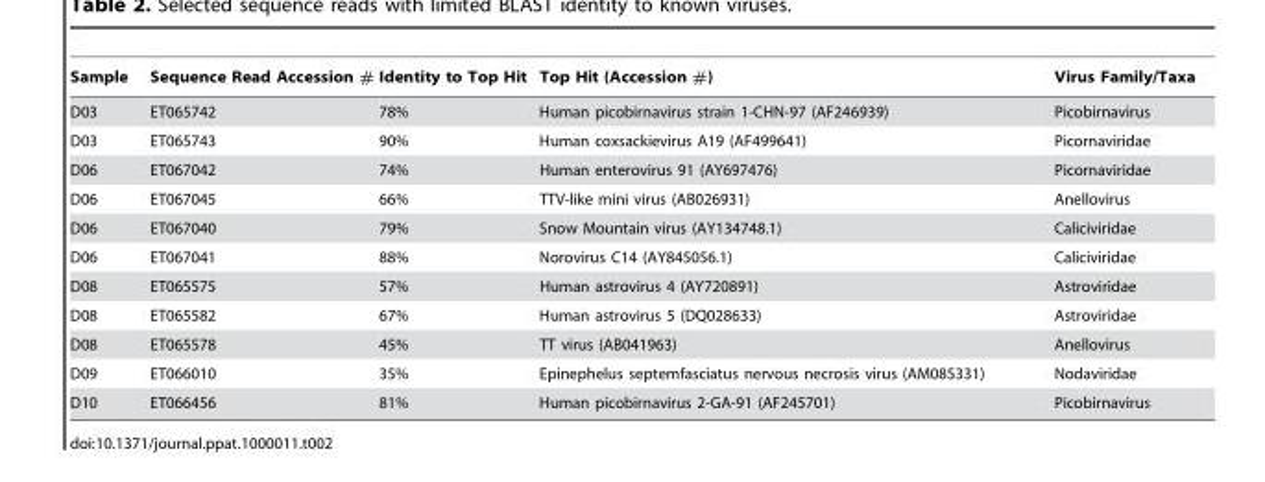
<table><thead><tr><td>Sample</td><td>Sequence Read Accession #</td><td>Identity to Top Hit</td><td>Top Hit (Accession #)</td><td>Virus Family/Taxa</td></tr></thead><tbody><tr><td>D03</td><td>ET065742</td><td>78%</td><td>Human picobirnavirus strain 1-CHN-97 (AF246939)</td><td>Picobirnavirus</td></tr><tr><td>D03</td><td>ET065743</td><td>90%</td><td>Human coxsackievirus A19 (AF499641)</td><td>Picornaviridae</td></tr><tr><td>D06</td><td>ET067042</td><td>74%</td><td>Human enterovirus 91 (AY697476)</td><td>Picornaviridae</td></tr><tr><td>D06</td><td>ET067045</td><td>66%</td><td>TTV-like mini virus (AB026931)</td><td>Anellovirus</td></tr><tr><td>D06</td><td>ET067040</td><td>79%</td><td>Snow Mountain virus (AY134748.1)</td><td>Caliciviridae</td></tr><tr><td>D06</td><td>ET067041</td><td>88%</td><td>Norovirus C14 (AY845056.1)</td><td>Caliciviridae</td></tr><tr><td>D08</td><td>ET065575</td><td>57%</td><td>Human astrovirus 4 (AY720891)</td><td>Astroviridae</td></tr><tr><td>D08</td><td>ET065582</td><td>67%</td><td>Human astrovirus 5 (DQ028633)</td><td>Astroviridae</td></tr><tr><td>D08</td><td>ET065578</td><td>45%</td><td>TT virus (AB041963)</td><td>Anellovirus</td></tr><tr><td>D09</td><td>ET066010</td><td>35%</td><td>Epinephelus septemfasciatus nervous necrosis virus (AM085331)</td><td>Nodaviridae</td></tr><tr><td>D10</td><td>ET066456</td><td>81%</td><td>Human picobirnavirus 2-GA-91 (AF245701)</td><td>Picobirnavirus</td></tr></tbody></table>